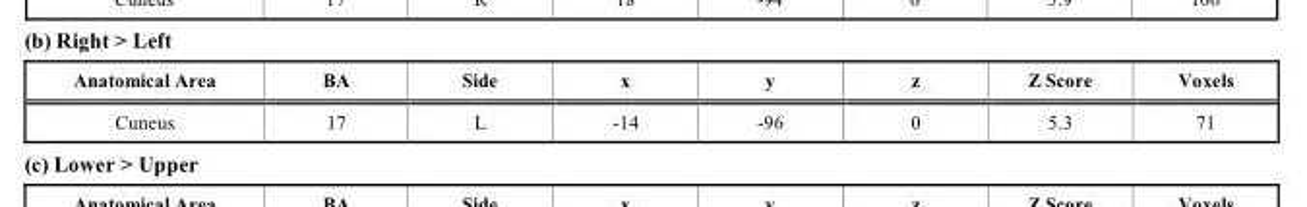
<table><thead><tr><td>Anatomical Area</td><td>BA</td><td>Side</td><td>x</td><td>y</td><td>z</td><td>Z Score</td><td>Voxels</td></tr></thead><tbody><tr><td>Cuneus</td><td>17</td><td>L</td><td>-14</td><td>-96</td><td>0</td><td>5.3</td><td>71</td></tr></tbody></table>